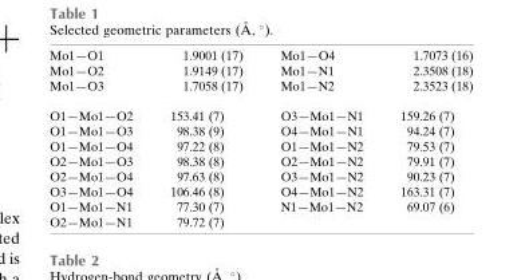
<table><tbody><tr><td>Mo1—O1</td><td>1.9001 (17)</td><td>Mo1—O4</td><td>1.7073 (16)</td></tr><tr><td>Mo1—O2</td><td>1.9149 (17)</td><td>Mo1—N1</td><td>2.3508 (18)</td></tr><tr><td>Mo1—O3</td><td>1.7058 (17)</td><td>Mo1—N2</td><td>2.3523 (18)</td></tr><tr><td>O1—Mo1—O2</td><td>153.41 (7)</td><td>O3—Mo1—N1</td><td>159.26 (7)</td></tr><tr><td>O1—Mo1—O3</td><td>98.38 (9)</td><td>O4—Mo1—N1</td><td>94.24 (7)</td></tr><tr><td>O1—Mo1—O4</td><td>97.22 (8)</td><td>O1—Mo1—N2</td><td>79.53 (7)</td></tr><tr><td>O2—Mo1—O3</td><td>98.38 (8)</td><td>O2—Mo1—N2</td><td>79.91 (7)</td></tr><tr><td>O2—Mo1—O4</td><td>97.63 (8)</td><td>O3—Mo1—N2</td><td>90.23 (7)</td></tr><tr><td>O3—Mo1—O4</td><td>106.46 (8)</td><td>O4—Mo1—N2</td><td>163.31 (7)</td></tr><tr><td>O1—Mo1—N1</td><td>77.30 (7)</td><td>N1—Mo1—N2</td><td>69.07 (6)</td></tr><tr><td>O2—Mo1—N1</td><td>79.72 (7)</td><td></td><td></td></tr></tbody></table>